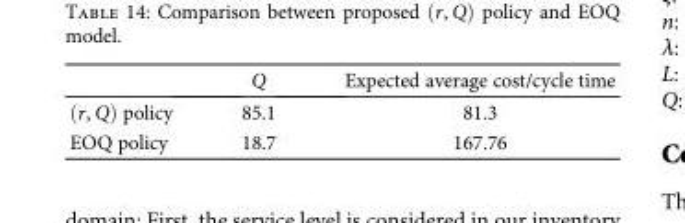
<table><thead><tr><td></td><td>Q</td><td>Expected average cost/cycle time</td></tr></thead><tbody><tr><td>r, Q policy</td><td>85.1</td><td>81.3</td></tr><tr><td>EOQ policy</td><td>18.7</td><td>167.76</td></tr></tbody></table>